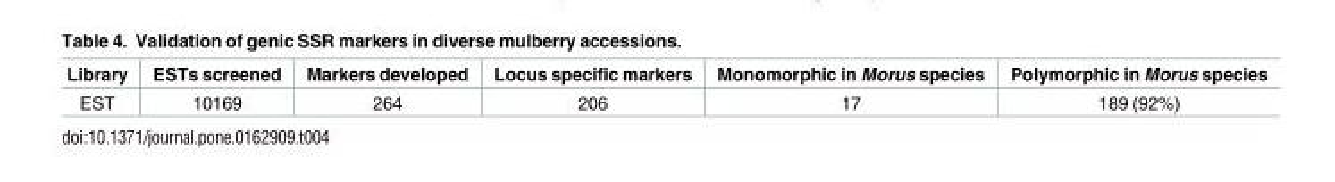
<table><thead><tr><td>Library</td><td>ESTs screened</td><td>Markers developed</td><td>Locus specific markers</td><td>Monomorphic in Morus species</td><td>Polymorphic in Morus species</td></tr></thead><tbody><tr><td>EST</td><td>10169</td><td>264</td><td>206</td><td>17</td><td>189 (92%)</td></tr></tbody></table>